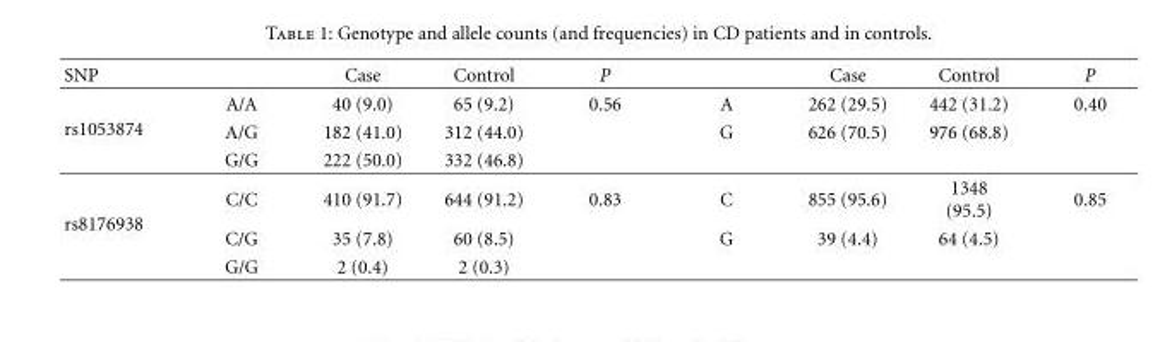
<table><thead><tr><td>SNP</td><td></td><td>Case</td><td>Control</td><td>P</td><td></td><td>Case</td><td>Control</td><td>P</td></tr></thead><tbody><tr><td rowspan="3">rs1053874</td><td>A/A</td><td>40 (9.0)</td><td>65 (9.2)</td><td>0.56</td><td>A</td><td>262 (29.5)</td><td>442 (31.2)</td><td>0.40</td></tr><tr><td>A/G</td><td>182 (41.0)</td><td>312 (44.0)</td><td></td><td>G</td><td>626 (70.5)</td><td>976 (68.8)</td><td></td></tr><tr><td>G/G</td><td>222 (50.0)</td><td>332 (46.8)</td><td></td><td></td><td></td><td></td><td></td></tr><tr><td rowspan="3">rs8176938</td><td>C/C</td><td>410 (91.7)</td><td>644 (91.2)</td><td>0.83</td><td>C</td><td>855 (95.6)</td><td>1348 (95.5)</td><td>0.85</td></tr><tr><td>C/G</td><td>35 (7.8)</td><td>60 (8.5)</td><td></td><td>G</td><td>39 (4.4)</td><td>64 (4.5)</td><td></td></tr><tr><td>G/G</td><td>2 (0.4)</td><td>2 (0.3)</td><td></td><td></td><td></td><td></td><td></td></tr></tbody></table>